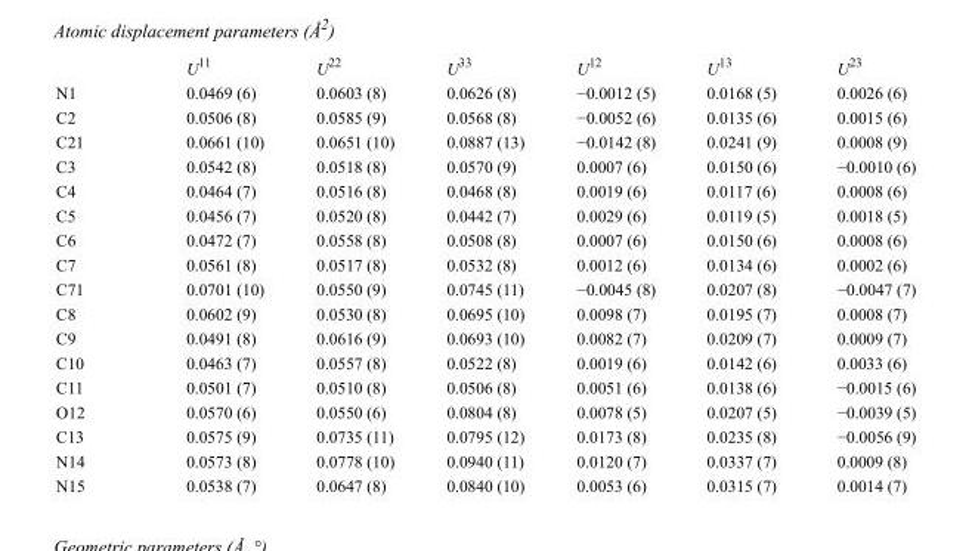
<table><thead><tr><td></td><td>U<sup>11</sup></td><td>U<sup>22</sup></td><td>U<sup>33</sup></td><td>U<sup>12</sup></td><td>U<sup>13</sup></td><td>U<sup>23</sup></td></tr></thead><tbody><tr><td>N1</td><td>0.0469 (6)</td><td>0.0603 (8)</td><td>0.0626 (8)</td><td>−0.0012 (5)</td><td>0.0168 (5)</td><td>0.0026 (6)</td></tr><tr><td>C2</td><td>0.0506 (8)</td><td>0.0585 (9)</td><td>0.0568 (8)</td><td>−0.0052 (6)</td><td>0.0135 (6)</td><td>0.0015 (6)</td></tr><tr><td>C21</td><td>0.0661 (10)</td><td>0.0651 (10)</td><td>0.0887 (13)</td><td>−0.0142 (8)</td><td>0.0241 (9)</td><td>0.0008 (9)</td></tr><tr><td>C3</td><td>0.0542 (8)</td><td>0.0518 (8)</td><td>0.0570 (9)</td><td>0.0007 (6)</td><td>0.0150 (6)</td><td>−0.0010 (6)</td></tr><tr><td>C4</td><td>0.0464 (7)</td><td>0.0516 (8)</td><td>0.0468 (8)</td><td>0.0019 (6)</td><td>0.0117 (6)</td><td>0.0008 (6)</td></tr><tr><td>C5</td><td>0.0456 (7)</td><td>0.0520 (8)</td><td>0.0442 (7)</td><td>0.0029 (6)</td><td>0.0119 (5)</td><td>0.0018 (5)</td></tr><tr><td>C6</td><td>0.0472 (7)</td><td>0.0558 (8)</td><td>0.0508 (8)</td><td>0.0007 (6)</td><td>0.0150 (6)</td><td>0.0008 (6)</td></tr><tr><td>C7</td><td>0.0561 (8)</td><td>0.0517 (8)</td><td>0.0532 (8)</td><td>0.0012 (6)</td><td>0.0134 (6)</td><td>0.0002 (6)</td></tr><tr><td>C71</td><td>0.0701 (10)</td><td>0.0550 (9)</td><td>0.0745 (11)</td><td>−0.0045 (8)</td><td>0.0207 (8)</td><td>−0.0047 (7)</td></tr><tr><td>C8</td><td>0.0602 (9)</td><td>0.0530 (8)</td><td>0.0695 (10)</td><td>0.0098 (7)</td><td>0.0195 (7)</td><td>0.0008 (7)</td></tr><tr><td>C9</td><td>0.0491 (8)</td><td>0.0616 (9)</td><td>0.0693 (10)</td><td>0.0082 (7)</td><td>0.0209 (7)</td><td>0.0009 (7)</td></tr><tr><td>C10</td><td>0.0463 (7)</td><td>0.0557 (8)</td><td>0.0522 (8)</td><td>0.0019 (6)</td><td>0.0142 (6)</td><td>0.0033 (6)</td></tr><tr><td>C11</td><td>0.0501 (7)</td><td>0.0510 (8)</td><td>0.0506 (8)</td><td>0.0051 (6)</td><td>0.0138 (6)</td><td>−0.0015 (6)</td></tr><tr><td>O12</td><td>0.0570 (6)</td><td>0.0550 (6)</td><td>0.0804 (8)</td><td>0.0078 (5)</td><td>0.0207 (5)</td><td>−0.0039 (5)</td></tr><tr><td>C13</td><td>0.0575 (9)</td><td>0.0735 (11)</td><td>0.0795 (12)</td><td>0.0173 (8)</td><td>0.0235 (8)</td><td>−0.0056 (9)</td></tr><tr><td>N14</td><td>0.0573 (8)</td><td>0.0778 (10)</td><td>0.0940 (11)</td><td>0.0120 (7)</td><td>0.0337 (7)</td><td>0.0009 (8)</td></tr><tr><td>N15</td><td>0.0538 (7)</td><td>0.0647 (8)</td><td>0.0840 (10)</td><td>0.0053 (6)</td><td>0.0315 (7)</td><td>0.0014 (7)</td></tr></tbody></table>